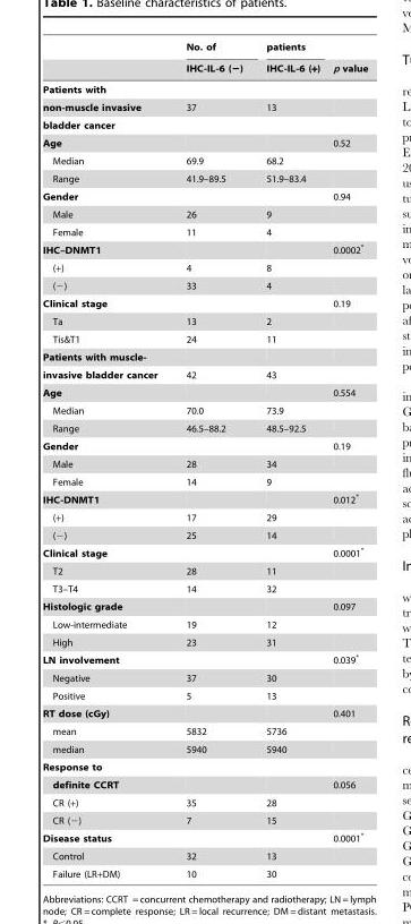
<table><thead><tr><td rowspan="2"></td><td rowspan="2">No. of IHC-IL-6 (−)</td><td rowspan="2">patients IHC-IL-6 (+)</td><td rowspan="2">p value</td></tr><tr></tr></thead><tbody><tr><td colspan="4">Patients with</td></tr><tr><td>non-muscle invasive</td><td>37</td><td>13</td><td></td></tr><tr><td colspan="4">bladder cancer</td></tr><tr><td>Age</td><td></td><td></td><td>0.52</td></tr><tr><td>Median</td><td>69.9</td><td>68.2</td><td></td></tr><tr><td>Range</td><td>41.9–89.5</td><td>51.9–83.4</td><td></td></tr><tr><td>Gender</td><td></td><td></td><td>0.94</td></tr><tr><td>Male</td><td>26</td><td>9</td><td></td></tr><tr><td>Female</td><td>11</td><td>4</td><td></td></tr><tr><td>IHC–DNMT1</td><td></td><td></td><td>0.0002*</td></tr><tr><td>(+)</td><td>4</td><td>8</td><td></td></tr><tr><td>(−)</td><td>33</td><td>4</td><td></td></tr><tr><td>Clinical stage</td><td></td><td></td><td>0.19</td></tr><tr><td>Ta</td><td>13</td><td>2</td><td></td></tr><tr><td>Tis&amp;T1</td><td>24</td><td>11</td><td></td></tr><tr><td colspan="4">Patients with muscle-</td></tr><tr><td>invasive bladder cancer</td><td>42</td><td>43</td><td></td></tr><tr><td>Age</td><td></td><td></td><td>0.554</td></tr><tr><td>Median</td><td>70.0</td><td>73.9</td><td></td></tr><tr><td>Range</td><td>46.5–88.2</td><td>48.5–92.5</td><td></td></tr><tr><td>Gender</td><td></td><td></td><td>0.19</td></tr><tr><td>Male</td><td>28</td><td>34</td><td></td></tr><tr><td>Female</td><td>14</td><td>9</td><td></td></tr><tr><td>IHC-DNMT1</td><td></td><td></td><td>0.012*</td></tr><tr><td>(+)</td><td>17</td><td>29</td><td></td></tr><tr><td>(−)</td><td>25</td><td>14</td><td></td></tr><tr><td>Clinical stage</td><td></td><td></td><td>0.0001*</td></tr><tr><td>T2</td><td>28</td><td>11</td><td></td></tr><tr><td>T3–T4</td><td>14</td><td>32</td><td></td></tr><tr><td>Histologic grade</td><td></td><td></td><td>0.097</td></tr><tr><td>Low-intermediate</td><td>19</td><td>12</td><td></td></tr><tr><td>High</td><td>23</td><td>31</td><td></td></tr><tr><td>LN involvement</td><td></td><td></td><td>0.039*</td></tr><tr><td>Negative</td><td>37</td><td>30</td><td></td></tr><tr><td>Positive</td><td>5</td><td>13</td><td></td></tr><tr><td>RT dose (cGy)</td><td></td><td></td><td>0.401</td></tr><tr><td>mean</td><td>5832</td><td>5736</td><td></td></tr><tr><td>median</td><td>5940</td><td>5940</td><td></td></tr><tr><td colspan="4">Response to</td></tr><tr><td>definite CCRT</td><td></td><td></td><td>0.056</td></tr><tr><td>CR (+)</td><td>35</td><td>28</td><td></td></tr><tr><td>CR (−)</td><td>7</td><td>15</td><td></td></tr><tr><td>Disease status</td><td></td><td></td><td>0.0001*</td></tr><tr><td>Control</td><td>32</td><td>13</td><td></td></tr><tr><td>Failure (LR+DM)</td><td>10</td><td>30</td><td></td></tr></tbody></table>